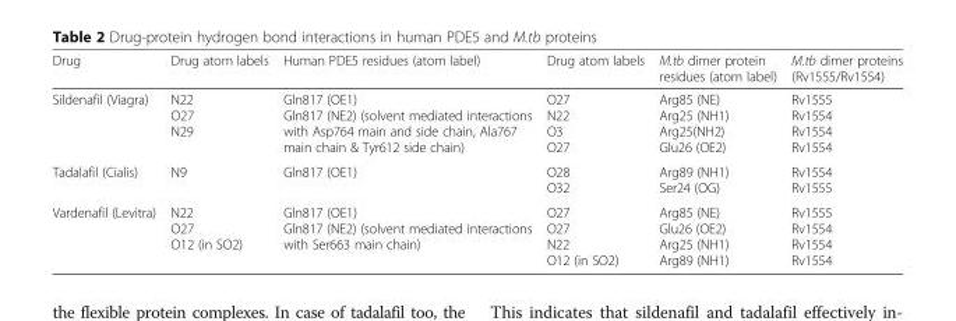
<table><thead><tr><td>Drug</td><td>Drug atom labels</td><td>Human PDE5 residues (atom label)</td><td>Drug atom labels</td><td>M.tb dimer protein residues (atom label)</td><td>M.tb dimer proteins (Rv1555/Rv1554)</td></tr></thead><tbody><tr><td>Sildenafil (Viagra)</td><td>N22 O27 N29</td><td>Gln817 (OE1) Gln817 (NE2) (solvent mediated interactions with Asp764 main and side chain, Ala767 main chain &amp; Tyr612 side chain)</td><td>O27 N22 O3 O27</td><td>Arg85 (NE) Arg25 (NH1) Arg25(NH2) Glu26 (OE2)</td><td>Rv1555 Rv1554 Rv1554 Rv1554</td></tr><tr><td>Tadalafil (Cialis)</td><td>N9</td><td>Gln817 (OE1)</td><td>O28 O32</td><td>Arg89 (NH1) Ser24 (OG)</td><td>Rv1554 Rv1555</td></tr><tr><td>Vardenafil (Levitra)</td><td>N22 O27 O12 (in SO2)</td><td>Gln817 (OE1) Gln817 (NE2) (solvent mediated interactions with Ser663 main chain)</td><td>O27 O27 N22 O12 (in SO2)</td><td>Arg85 (NE) Glu26 (OE2) Arg25 (NH1) Arg89 (NH1)</td><td>Rv1555 Rv1554 Rv1554 Rv1554</td></tr></tbody></table>